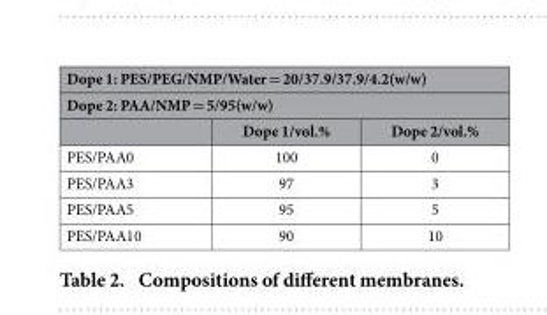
<table><thead><tr><td rowspan="2" colspan="3">Dope 1: PES/PEG/NMP/Water = 20/37.9/37.9/4.2(w/w) Dope 2: PAA/NMP = 5/95(w/w)</td></tr><tr></tr><tr><td></td><td>Dope 1/vol.%</td><td>Dope 2/vol.%</td></tr></thead><tbody><tr><td>PES/PAA0</td><td>100</td><td>0</td></tr><tr><td>PES/PAA3</td><td>97</td><td>3</td></tr><tr><td>PES/PAA5</td><td>95</td><td>5</td></tr><tr><td>PES/PAA10</td><td>90</td><td>10</td></tr></tbody></table>